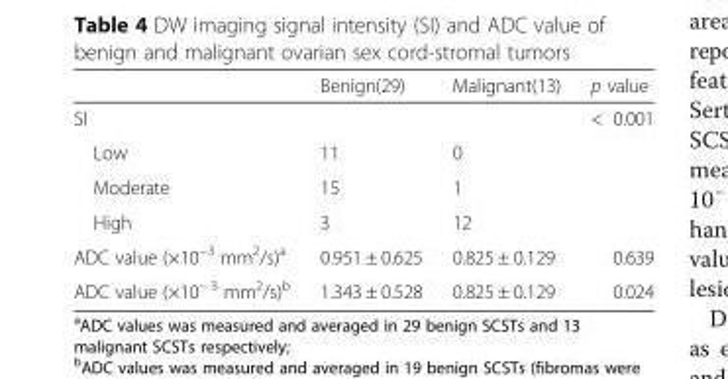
<table><thead><tr><td></td><td>Benign(29)</td><td>Malignant(13)</td><td>p value</td></tr></thead><tbody><tr><td>SI</td><td></td><td></td><td>&lt; 0.001</td></tr><tr><td>Low</td><td>11</td><td>0</td><td></td></tr><tr><td>Moderate</td><td>15</td><td>1</td><td></td></tr><tr><td>High</td><td>3</td><td>12</td><td></td></tr><tr><td>ADC value (×10<sup>−3</sup> mm<sup>2</sup>/s)<sup>a</sup></td><td>0.951 ± 0.625</td><td>0.825 ± 0.129</td><td>0.639</td></tr><tr><td>ADC value (×10<sup>− 3</sup> mm<sup>2</sup>/s)<sup>b</sup></td><td>1.343 ± 0.528</td><td>0.825 ± 0.129</td><td>0.024</td></tr></tbody></table>